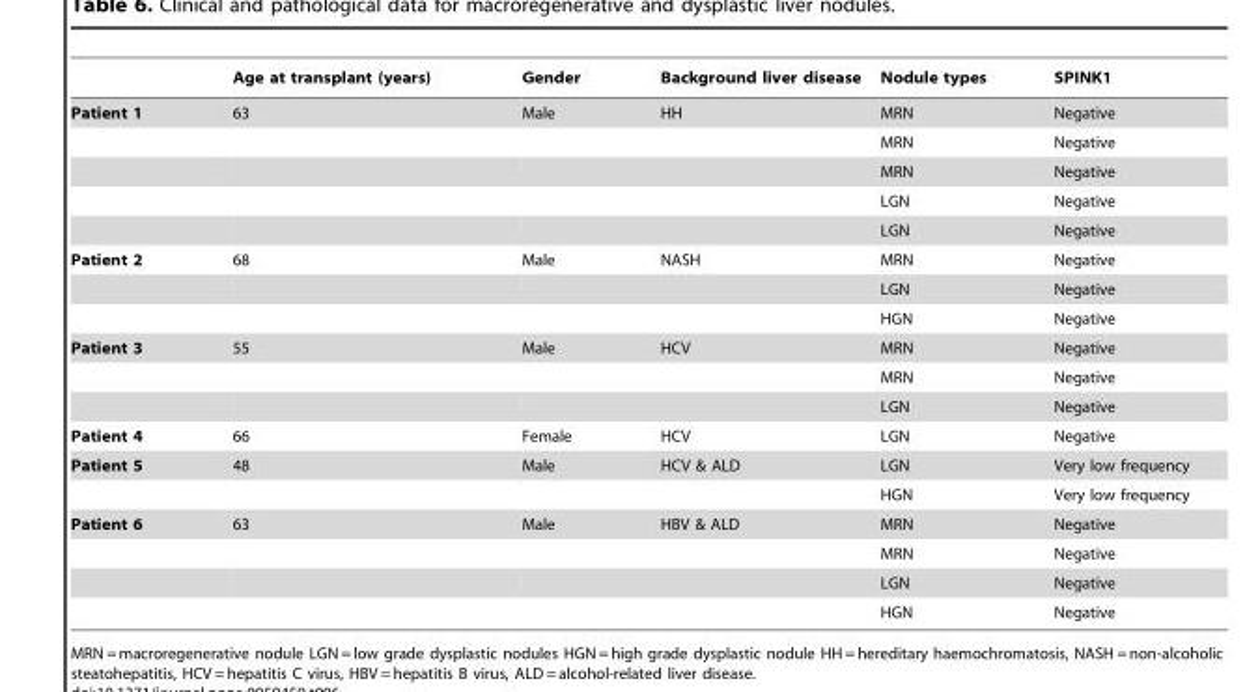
<table><thead><tr><td></td><td>Age at transplant (years)</td><td>Gender</td><td>Background liver disease</td><td>Nodule types</td><td>SPINK1</td></tr></thead><tbody><tr><td rowspan="5">Patient 1</td><td>63</td><td>Male</td><td>HH</td><td>MRN</td><td>Negative</td></tr><tr><td></td><td></td><td></td><td>MRN</td><td>Negative</td></tr><tr><td></td><td></td><td></td><td>MRN</td><td>Negative</td></tr><tr><td></td><td></td><td></td><td>LGN</td><td>Negative</td></tr><tr><td></td><td></td><td></td><td>LGN</td><td>Negative</td></tr><tr><td rowspan="3">Patient 2</td><td>68</td><td>Male</td><td>NASH</td><td>MRN</td><td>Negative</td></tr><tr><td></td><td></td><td></td><td>LGN</td><td>Negative</td></tr><tr><td></td><td></td><td></td><td>HGN</td><td>Negative</td></tr><tr><td rowspan="3">Patient 3</td><td>55</td><td>Male</td><td>HCV</td><td>MRN</td><td>Negative</td></tr><tr><td></td><td></td><td></td><td>MRN</td><td>Negative</td></tr><tr><td></td><td></td><td></td><td>LGN</td><td>Negative</td></tr><tr><td>Patient 4</td><td>66</td><td>Female</td><td>HCV</td><td>LGN</td><td>Negative</td></tr><tr><td rowspan="2">Patient 5</td><td>48</td><td>Male</td><td>HCV &amp; ALD</td><td>LGN</td><td>Very low frequency</td></tr><tr><td></td><td></td><td></td><td>HGN</td><td>Very low frequency</td></tr><tr><td rowspan="4">Patient 6</td><td>63</td><td>Male</td><td>HBV &amp; ALD</td><td>MRN</td><td>Negative</td></tr><tr><td></td><td></td><td></td><td>MRN</td><td>Negative</td></tr><tr><td></td><td></td><td></td><td>LGN</td><td>Negative</td></tr><tr><td></td><td></td><td></td><td>HGN</td><td>Negative</td></tr></tbody></table>